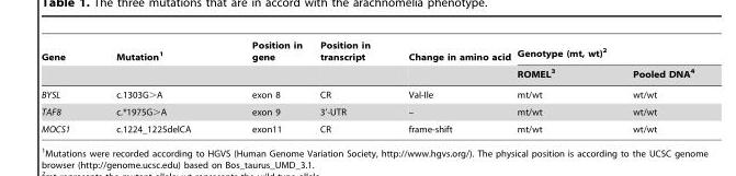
<table><thead><tr><td rowspan="2">Gene</td><td rowspan="2">Mutation<sup>1</sup></td><td rowspan="2">Position in gene</td><td rowspan="2">Position in transcript</td><td rowspan="2">Change in amino acid</td><td colspan="2">Genotype (mt, wt)<sup>2</sup></td></tr><tr><td>ROMEL<sup>3</sup></td><td>Pooled DNA<sup>4</sup></td></tr></thead><tbody><tr><td>BYSL</td><td>c.1303G&gt;A</td><td>exon 8</td><td>CR</td><td>Val-Ile</td><td>mt/wt</td><td>wt/wt</td></tr><tr><td>TAF8</td><td>c.*1975G&gt;A</td><td>exon 9</td><td>3’-UTR</td><td>–</td><td>mt/wt</td><td>wt/wt</td></tr><tr><td>MOCS1</td><td>c.1224_1225delCA</td><td>exon11</td><td>CR</td><td>frame-shift</td><td>mt/wt</td><td>wt/wt</td></tr></tbody></table>